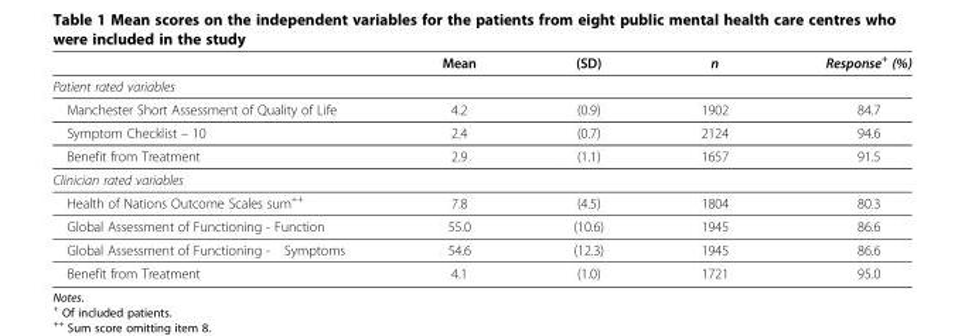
<table><thead><tr><td></td><td>Mean</td><td>(SD)</td><td>n</td><td>Response<sup>+</sup> (%)</td></tr></thead><tbody><tr><td colspan="5">Patient rated variables</td></tr><tr><td>Manchester Short Assessment of Quality of Life</td><td>4.2</td><td>(0.9)</td><td>1902</td><td>84.7</td></tr><tr><td>Symptom Checklist – 10</td><td>2.4</td><td>(0.7)</td><td>2124</td><td>94.6</td></tr><tr><td>Benefit from Treatment</td><td>2.9</td><td>(1.1)</td><td>1657</td><td>91.5</td></tr><tr><td colspan="5">Clinician rated variables</td></tr><tr><td>Health of Nations Outcome Scales sum<sup>++</sup></td><td>7.8</td><td>(4.5)</td><td>1804</td><td>80.3</td></tr><tr><td>Global Assessment of Functioning - Function</td><td>55.0</td><td>(10.6)</td><td>1945</td><td>86.6</td></tr><tr><td>Global Assessment of Functioning - Symptoms</td><td>54.6</td><td>(12.3)</td><td>1945</td><td>86.6</td></tr><tr><td>Benefit from Treatment</td><td>4.1</td><td>(1.0)</td><td>1721</td><td>95.0</td></tr></tbody></table>